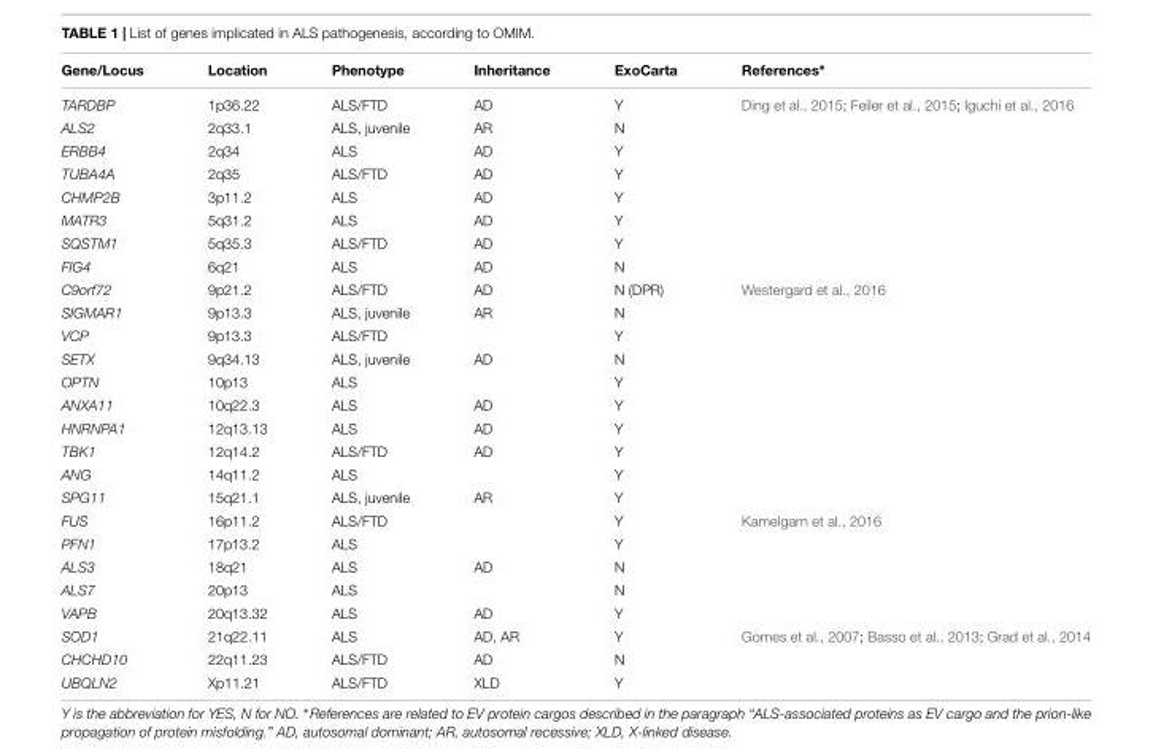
<table><thead><tr><td>Gene/Locus</td><td>Location</td><td>Phenotype</td><td>Inheritance</td><td>ExoCarta</td><td>References∗</td></tr></thead><tbody><tr><td>TARDBP</td><td>1p36.22</td><td>ALS/FTD</td><td>AD</td><td>Y</td><td>Ding et al., 2015; Feiler et al., 2015; Iguchi et al., 2016</td></tr><tr><td>ALS2</td><td>2q33.1</td><td>ALS, juvenile</td><td>AR</td><td>N</td><td></td></tr><tr><td>ERBB4</td><td>2q34</td><td>ALS</td><td>AD</td><td>Y</td><td></td></tr><tr><td>TUBA4A</td><td>2q35</td><td>ALS/FTD</td><td>AD</td><td>Y</td><td></td></tr><tr><td>CHMP2B</td><td>3p11.2</td><td>ALS</td><td>AD</td><td>Y</td><td></td></tr><tr><td>MATR3</td><td>5q31.2</td><td>ALS</td><td>AD</td><td>Y</td><td></td></tr><tr><td>SQSTM1</td><td>5q35.3</td><td>ALS/FTD</td><td>AD</td><td>Y</td><td></td></tr><tr><td>FIG4</td><td>6q21</td><td>ALS</td><td>AD</td><td>N</td><td></td></tr><tr><td>C9orf72</td><td>9p21.2</td><td>ALS/FTD</td><td>AD</td><td>N (DPR)</td><td>Westergard et al., 2016</td></tr><tr><td>SIGMAR1</td><td>9p13.3</td><td>ALS, juvenile</td><td>AR</td><td>N</td><td></td></tr><tr><td>VCP</td><td>9p13.3</td><td>ALS/FTD</td><td></td><td>Y</td><td></td></tr><tr><td>SETX</td><td>9q34.13</td><td>ALS, juvenile</td><td>AD</td><td>N</td><td></td></tr><tr><td>OPTN</td><td>10p13</td><td>ALS</td><td></td><td>Y</td><td></td></tr><tr><td>ANXA11</td><td>10q22.3</td><td>ALS</td><td>AD</td><td>Y</td><td></td></tr><tr><td>HNRNPA1</td><td>12q13.13</td><td>ALS</td><td>AD</td><td>Y</td><td></td></tr><tr><td>TBK1</td><td>12q14.2</td><td>ALS/FTD</td><td>AD</td><td>Y</td><td></td></tr><tr><td>ANG</td><td>14q11.2</td><td>ALS</td><td></td><td>Y</td><td></td></tr><tr><td>SPG11</td><td>15q21.1</td><td>ALS, juvenile</td><td>AR</td><td>Y</td><td></td></tr><tr><td>FUS</td><td>16p11.2</td><td>ALS/FTD</td><td></td><td>Y</td><td>Kamelgarn et al., 2016</td></tr><tr><td>PFN1</td><td>17p13.2</td><td>ALS</td><td></td><td>Y</td><td></td></tr><tr><td>ALS3</td><td>18q21</td><td>ALS</td><td>AD</td><td>N</td><td></td></tr><tr><td>ALS7</td><td>20p13</td><td>ALS</td><td></td><td>N</td><td></td></tr><tr><td>VAPB</td><td>20q13.32</td><td>ALS</td><td>AD</td><td>Y</td><td></td></tr><tr><td>SOD1</td><td>21q22.11</td><td>ALS</td><td>AD, AR</td><td>Y</td><td>Gomes et al., 2007; Basso et al., 2013; Grad et al., 2014</td></tr><tr><td>CHCHD10</td><td>22q11.23</td><td>ALS/FTD</td><td>AD</td><td>N</td><td></td></tr><tr><td>UBQLN2</td><td>Xp11.21</td><td>ALS/FTD</td><td>XLD</td><td>Y</td><td></td></tr></tbody></table>